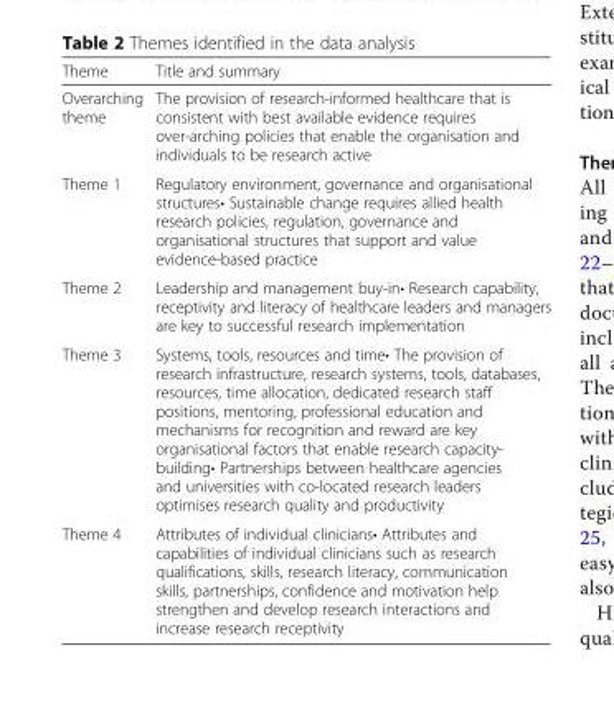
<table><thead><tr><td>Theme</td><td>Title and summary</td></tr></thead><tbody><tr><td>Overarching theme</td><td>The provision of research-informed healthcare that is consistent with best available evidence requires over-arching policies that enable the organisation and individuals to be research active</td></tr><tr><td>Theme 1</td><td>Regulatory environment, governance and organisational structures• Sustainable change requires allied health research policies, regulation, governance and organisational structures that support and value evidence-based practice</td></tr><tr><td>Theme 2</td><td>Leadership and management buy-in• Research capability, receptivity and literacy of healthcare leaders and managers are key to successful research implementation</td></tr><tr><td>Theme 3</td><td>Systems, tools, resources and time• The provision of research infrastructure, research systems, tools, databases, resources, time allocation, dedicated research staff positions, mentoring, professional education and mechanisms for recognition and reward are key organisational factors that enable research capacity- building• Partnerships between healthcare agencies and universities with co-located research leaders optimises research quality and productivity</td></tr><tr><td>Theme 4</td><td>Attributes of individual clinicians• Attributes and capabilities of individual clinicians such as research qualifications, skills, research literacy, communication skills, partnerships, confidence and motivation help strengthen and develop research interactions and increase research receptivity</td></tr></tbody></table>